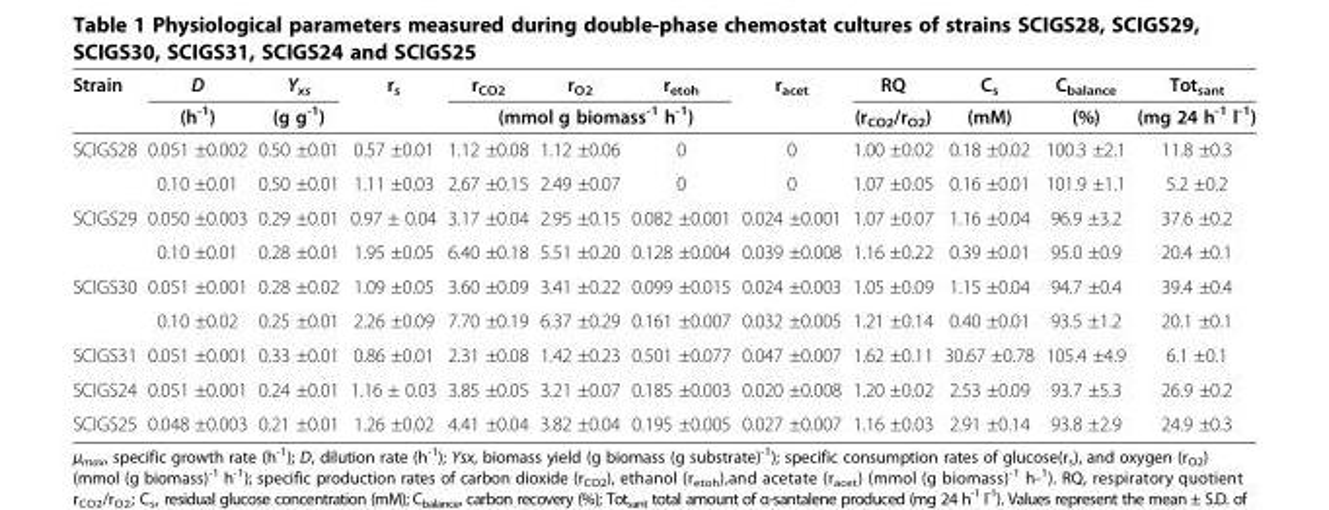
<table><thead><tr><td rowspan="2">Strain</td><td rowspan="2">D (h<sup>-1</sup>)</td><td rowspan="2">Y<sub>xs</sub> (g g<sup>-1</sup>)</td><td>r<sub>s</sub></td><td>r<sub>CO2</sub></td><td>r<sub>O2</sub></td><td>r<sub>etoh</sub></td><td>r<sub>acet</sub></td><td rowspan="2">RQ (r<sub>CO2</sub>/r<sub>O2</sub>)</td><td rowspan="2">C<sub>s</sub> (mM)</td><td rowspan="2">C<sub>balance</sub> (%)</td><td rowspan="2">Tot<sub>sant</sub> (mg 24 h<sup>-1</sup> l<sup>-1</sup>)</td></tr><tr><td colspan="5">(mmol g biomass<sup>-1</sup> h<sup>-1</sup>)</td></tr></thead><tbody><tr><td rowspan="2">SCIGS28</td><td>0.051 ±0.002</td><td>0.50 ±0.01</td><td>0.57 ±0.01</td><td>1.12 ±0.08</td><td>1.12 ±0.06</td><td>0</td><td>0</td><td>1.00 ±0.02</td><td>0.18 ±0.02</td><td>100.3 ±2.1</td><td>11.8 ±0.3</td></tr><tr><td>0.10 ±0.01</td><td>0.50 ±0.01</td><td>1.11 ±0.03</td><td>2.67 ±0.15</td><td>2.49 ±0.07</td><td>0</td><td>0</td><td>1.07 ±0.05</td><td>0.16 ±0.01</td><td>101.9 ±1.1</td><td>5.2 ±0.2</td></tr><tr><td rowspan="2">SCIGS29</td><td>0.050 ±0.003</td><td>0.29 ±0.01</td><td>0.97 ± 0.04</td><td>3.17 ±0.04</td><td>2.95 ±0.15</td><td>0.082 ±0.001</td><td>0.024 ±0.001</td><td>1.07 ±0.07</td><td>1.16 ±0.04</td><td>96.9 ±3.2</td><td>37.6 ±0.2</td></tr><tr><td>0.10 ±0.01</td><td>0.28 ±0.01</td><td>1.95 ±0.05</td><td>6.40 ±0.18</td><td>5.51 ±0.20</td><td>0.128 ±0.004</td><td>0.039 ±0.008</td><td>1.16 ±0.22</td><td>0.39 ±0.01</td><td>95.0 ±0.9</td><td>20.4 ±0.1</td></tr><tr><td rowspan="2">SCIGS30</td><td>0.051 ±0.001</td><td>0.28 ±0.02</td><td>1.09 ±0.05</td><td>3.60 ±0.09</td><td>3.41 ±0.22</td><td>0.099 ±0.015</td><td>0.024 ±0.003</td><td>1.05 ±0.09</td><td>1.15 ±0.04</td><td>94.7 ±0.4</td><td>39.4 ±0.4</td></tr><tr><td>0.10 ±0.02</td><td>0.25 ±0.01</td><td>2.26 ±0.09</td><td>7.70 ±0.19</td><td>6.37 ±0.29</td><td>0.161 ±0.007</td><td>0.032 ±0.005</td><td>1.21 ±0.14</td><td>0.40 ±0.01</td><td>93.5 ±1.2</td><td>20.1 ±0.1</td></tr><tr><td>SCIGS31</td><td>0.051 ±0.001</td><td>0.33 ±0.01</td><td>0.86 ±0.01</td><td>2.31 ±0.08</td><td>1.42 ±0.23</td><td>0.501 ±0.077</td><td>0.047 ±0.007</td><td>1.62 ±0.11</td><td>30.67 ±0.78</td><td>105.4 ±4.9</td><td>6.1 ±0.1</td></tr><tr><td>SCIGS24</td><td>0.051 ±0.001</td><td>0.24 ±0.01</td><td>1.16 ± 0.03</td><td>3.85 ±0.05</td><td>3.21 ±0.07</td><td>0.185 ±0.003</td><td>0.020 ±0.008</td><td>1.20 ±0.02</td><td>2.53 ±0.09</td><td>93.7 ±5.3</td><td>26.9 ±0.2</td></tr><tr><td>SCIGS25</td><td>0.048 ±0.003</td><td>0.21 ±0.01</td><td>1.26 ±0.02</td><td>4.41 ±0.04</td><td>3.82 ±0.04</td><td>0.195 ±0.005</td><td>0.027 ±0.007</td><td>1.16 ±0.03</td><td>2.91 ±0.14</td><td>93.8 ±2.9</td><td>24.9 ±0.3</td></tr></tbody></table>